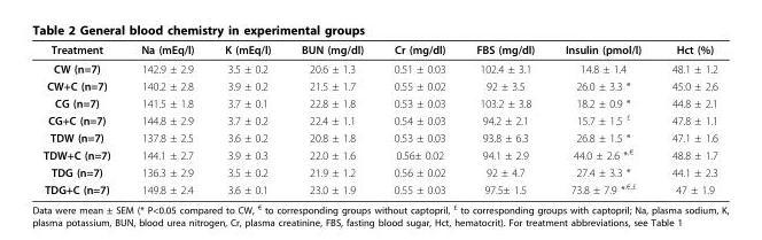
<table><thead><tr><td>Treatment</td><td>Na (mEq/l)</td><td>K (mEq/l)</td><td>BUN (mg/dl)</td><td>Cr (mg/dl)</td><td>FBS (mg/dl)</td><td>Insulin (pmol/l)</td><td>Hct (%)</td></tr></thead><tbody><tr><td>CW (n=7)</td><td>142.9 ± 2.9</td><td>3.5 ± 0.2</td><td>20.6 ± 1.3</td><td>0.51 ± 0.03</td><td>102.4 ± 3.1</td><td>14.8 ± 1.4</td><td>48.1 ± 1.2</td></tr><tr><td>CW+C (n=7)</td><td>140.2 ± 2.8</td><td>3.9 ± 0.2</td><td>21.5 ± 1.7</td><td>0.55 ± 0.02</td><td>92 ± 3.5</td><td>26.0 ± 3.3 *</td><td>45.0 ± 2.6</td></tr><tr><td>CG (n=7)</td><td>141.5 ± 1.8</td><td>3.7 ± 0.1</td><td>22.8 ± 1.8</td><td>0.53 ± 0.03</td><td>103.2 ± 3.8</td><td>18.2 ± 0.9 *</td><td>44.8 ± 2.1</td></tr><tr><td>CG+C (n=7)</td><td>144.8 ± 2.9</td><td>3.7 ± 0.2</td><td>22.4 ± 1.1</td><td>0.54 ± 0.03</td><td>94.2 ± 2.1</td><td>15.7 ± 1.5 <sup>£</sup></td><td>47.8 ± 1.1</td></tr><tr><td>TDW (n=7)</td><td>137.8 ± 2.5</td><td>3.6 ± 0.2</td><td>20.8 ± 1.8</td><td>0.53 ± 0.03</td><td>93.8 ± 6.3</td><td>26.8 ± 1.5 *</td><td>47.1 ± 1.6</td></tr><tr><td>TDW+C (n=7)</td><td>144.1 ± 2.7</td><td>3.9 ± 0.3</td><td>22.0 ± 1.6</td><td>0.56± 0.02</td><td>94.1 ± 2.9</td><td>44.0 ± 2.6 *<sup>,€</sup></td><td>48.8 ± 1.7</td></tr><tr><td>TDG (n=7)</td><td>136.3 ± 2.9</td><td>3.5 ± 0.2</td><td>21.9 ± 1.2</td><td>0.56 ± 0.02</td><td>92 ± 4.7</td><td>27.4 ± 3.3 *</td><td>44.1 ± 2.3</td></tr><tr><td>TDG+C (n=7)</td><td>149.8 ± 2.4</td><td>3.6 ± 0.1</td><td>23.0 ± 1.9</td><td>0.55 ± 0.03</td><td>97.5± 1.5</td><td>73.8 ± 7.9 *<sup>,€,£</sup></td><td>47 ± 1.9</td></tr></tbody></table>